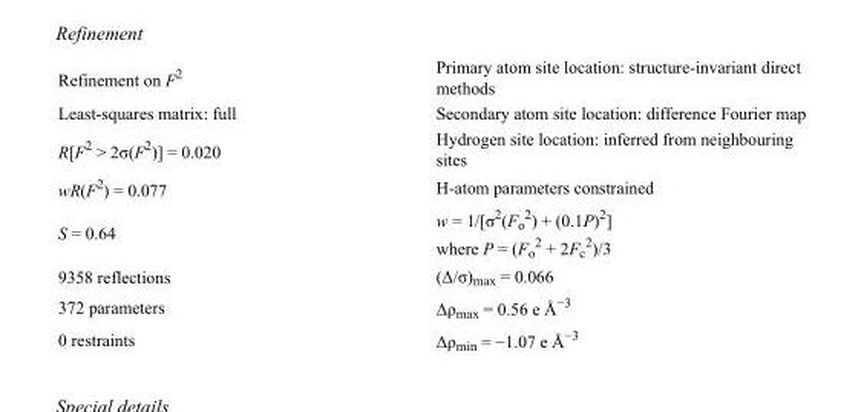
<table><tbody><tr><td>Refinement on F<sup>2</sup></td><td>Primary atom site location: structure-invariant direct methods</td></tr><tr><td>Least-squares matrix: full</td><td>Secondary atom site location: difference Fourier map</td></tr><tr><td>R[F<sup>2</sup> &gt; 2σ(F<sup>2</sup>)] = 0.020</td><td>Hydrogen site location: inferred from neighbouring sites</td></tr><tr><td>wR(F<sup>2</sup>) = 0.077</td><td>H-atom parameters constrained</td></tr><tr><td>S = 0.64</td><td>w = 1/[σ<sup>2</sup>(F<sub>o</sub> <sup>2</sup>) + (0.1P)<sup>2</sup>] where P = (F<sub>o</sub> <sup>2</sup> + 2F<sub>c</sub> <sup>2</sup>)/3</td></tr><tr><td>9358 reflections</td><td>(Δ/σ)<sub>max</sub> = 0.066</td></tr><tr><td>372 parameters</td><td>Δρ<sub>max</sub> = 0.56 e Å<sup>−3</sup></td></tr><tr><td>0 restraints</td><td>Δρ<sub>min</sub> = −1.07 e Å<sup>−3</sup></td></tr></tbody></table>